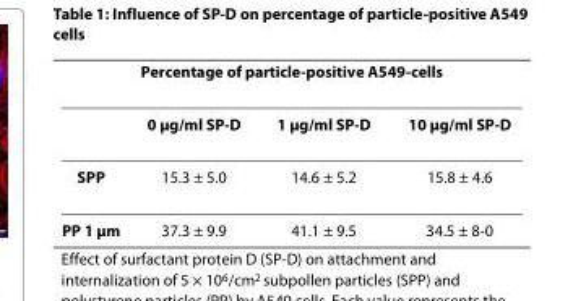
<table><thead><tr><td colspan="4">Percentage of particle-positive A549-cells</td></tr><tr><td></td><td>0 μg/ml SP-D</td><td>1 μg/ml SP-D</td><td>10 μg/ml SP-D</td></tr></thead><tbody><tr><td>SPP</td><td>15.3 ± 5.0</td><td>14.6 ± 5.2</td><td>15.8 ± 4.6</td></tr><tr><td>PP 1 μm</td><td>37.3 ± 9.9</td><td>41.1 ± 9.5</td><td>34.5 ± 8-0</td></tr></tbody></table>